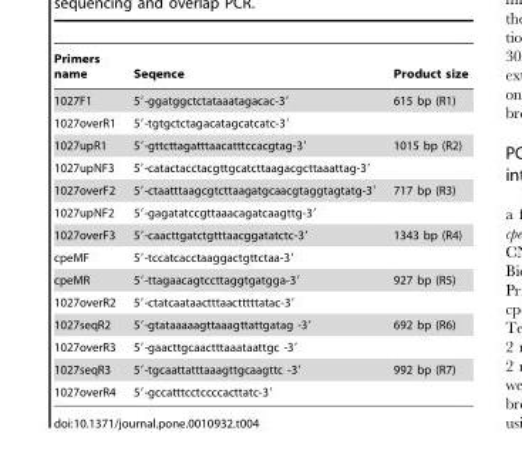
<table><thead><tr><td>Primers name</td><td>Seqence</td><td>Product size</td></tr></thead><tbody><tr><td>1027F1</td><td>5′-ggatggctctataaatagacac-3′</td><td>615 bp (R1)</td></tr><tr><td>1027overR1</td><td>5′-tgtgctctagacatagcatcatc-3′</td><td></td></tr><tr><td>1027upR1</td><td>5′-gttcttagatttaacatttccacgtag-3′</td><td>1015 bp (R2)</td></tr><tr><td>1027upNF3</td><td>5′-catactacctacgttgcatcttaagacgcttaaattag-3′</td><td></td></tr><tr><td>1027overF2</td><td>5′-ctaatttaagcgtcttaagatgcaacgtaggtagtatg-3′</td><td>717 bp (R3)</td></tr><tr><td>1027upNF2</td><td>5′-gagatatccgttaaacagatcaagttg-3′</td><td></td></tr><tr><td>1027overF3</td><td>5′-caacttgatctgtttaacggatatctc-3′</td><td>1343 bp (R4)</td></tr><tr><td>cpeMF</td><td>5′-tccatcacctaaggactgttctaa-3′</td><td></td></tr><tr><td>cpeMR</td><td>5′-ttagaacagtccttaggtgatgga-3′</td><td>927 bp (R5)</td></tr><tr><td>1027overR2</td><td>5′-ctatcaataactttaactttttatac-3′</td><td></td></tr><tr><td>1027seqR2</td><td>5′-gtataaaaagttaaagttattgatag -3′</td><td>692 bp (R6)</td></tr><tr><td>1027overR3</td><td>5′-gaacttgcaactttaaataattgc -3′</td><td></td></tr><tr><td>1027seqR3</td><td>5′-tgcaattatttaaagttgcaagttc -3′</td><td>992 bp (R7)</td></tr><tr><td>1027overR4</td><td>5′-gccatttcctccccacttatc-3′</td><td></td></tr></tbody></table>